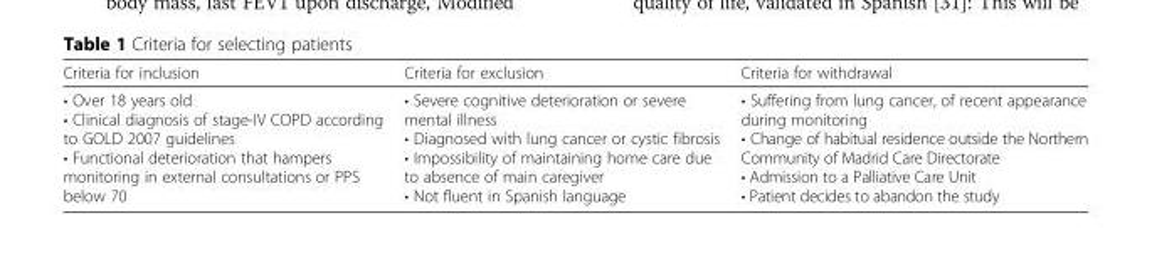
<table><thead><tr><td>Criteria for inclusion</td><td>Criteria for exclusion</td><td>Criteria for withdrawal</td></tr></thead><tbody><tr><td>• Over 18 years old • Clinical diagnosis of stage-IV COPD according to GOLD 2007 guidelines • Functional deterioration that hampers monitoring in external consultations or PPS below 70</td><td>• Severe cognitive deterioration or severe mental illness • Diagnosed with lung cancer or cystic fibrosis • Impossibility of maintaining home care due to absence of main caregiver • Not fluent in Spanish language</td><td>• Suffering from lung cancer, of recent appearance during monitoring • Change of habitual residence outside the Northern Community of Madrid Care Directorate • Admission to a Palliative Care Unit • Patient decides to abandon the study</td></tr></tbody></table>